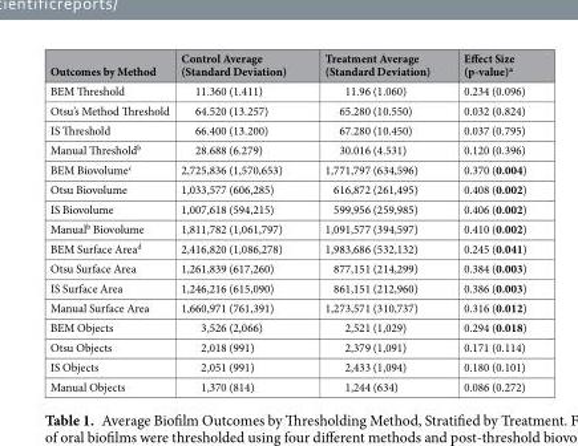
<table><thead><tr><td>Outcomes by Method</td><td>Control Average (Standard Deviation)</td><td>Treatment Average (Standard Deviation)</td><td>Effect Size (p-value)<sup>a</sup></td></tr></thead><tbody><tr><td>BEM Threshold</td><td>11.360 (1.411)</td><td>11.96 (1.060)</td><td>0.234 (0.096)</td></tr><tr><td>Otsu’s Method Threshold</td><td>64.520 (13.257)</td><td>65.280 (10.550)</td><td>0.032 (0.824)</td></tr><tr><td>IS Threshold</td><td>66.400 (13.200)</td><td>67.280 (10.450)</td><td>0.037 (0.795)</td></tr><tr><td>Manual Threshold<sup>b</sup></td><td>28.688 (6.279)</td><td>30.016 (4.531)</td><td>0.120 (0.396)</td></tr><tr><td>BEM Biovolume<sup>c</sup></td><td>2,725,836 (1,570,653)</td><td>1,771,797 (634,596)</td><td>0.370 (0.004)</td></tr><tr><td>Otsu Biovolume</td><td>1,033,577 (606,285)</td><td>616,872 (261,495)</td><td>0.408 (0.002)</td></tr><tr><td>IS Biovolume</td><td>1,007,618 (594,215)</td><td>599,956 (259,985)</td><td>0.406 (0.002)</td></tr><tr><td>Manual<sup>b</sup> Biovolume</td><td>1,811,782 (1,061,797)</td><td>1,091,577 (394,597)</td><td>0.410 (0.002)</td></tr><tr><td>BEM Surface Area<sup>d</sup></td><td>2,416,820 (1,086,278)</td><td>1,983,686 (532,132)</td><td>0.245 (0.041)</td></tr><tr><td>Otsu Surface Area</td><td>1,261,839 (617,260)</td><td>877,151 (214,299)</td><td>0.384 (0.003)</td></tr><tr><td>IS Surface Area</td><td>1,246,216 (615,090)</td><td>861,151 (212,960)</td><td>0.386 (0.003)</td></tr><tr><td>Manual Surface Area</td><td>1,660,971 (761,391)</td><td>1,273,571 (310,737)</td><td>0.316 (0.012)</td></tr><tr><td>BEM Objects</td><td>3,526 (2,066)</td><td>2,521 (1,029)</td><td>0.294 (0.018)</td></tr><tr><td>Otsu Objects</td><td>2,018 (991)</td><td>2,379 (1,091)</td><td>0.171 (0.114)</td></tr><tr><td>IS Objects</td><td>2,051 (991)</td><td>2,433 (1,094)</td><td>0.180 (0.101)</td></tr><tr><td>Manual Objects</td><td>1,370 (814)</td><td>1,244 (634)</td><td>0.086 (0.272)</td></tr></tbody></table>